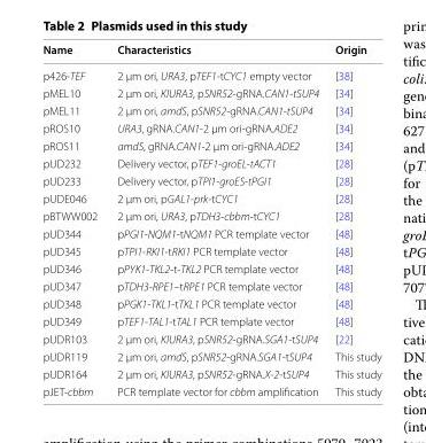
<table><thead><tr><td>Name</td><td>Characteristics</td><td>Origin</td></tr></thead><tbody><tr><td>p426-TEF</td><td>2 μm ori, URA3, pTEF1-tCYC1 empty vector</td><td>[38]</td></tr><tr><td>pMEL10</td><td>2 μm ori, KlURA3, pSNR52-gRNA.CAN1-tSUP4</td><td>[34]</td></tr><tr><td>pMEL11</td><td>2 μm ori, amdS, pSNR52-gRNA.CAN1-tSUP4</td><td>[34]</td></tr><tr><td>pROS10</td><td>URA3, gRNA.CAN1-2 μm ori-gRNA.ADE2</td><td>[34]</td></tr><tr><td>pROS11</td><td>amdS, gRNA.CAN1-2 μm ori-gRNA.ADE2</td><td>[34]</td></tr><tr><td>pUD232</td><td>Delivery vector, pTEF1-groEL-tACT1</td><td>[28]</td></tr><tr><td>pUD233</td><td>Delivery vector, pTPI1-groES-tPGI1</td><td>[28]</td></tr><tr><td>pUDE046</td><td>2 μm ori, pGAL1-prk-tCYC1</td><td>[28]</td></tr><tr><td>pBTWW002</td><td>2 μm ori, URA3, pTDH3-cbbm-tCYC1</td><td>[28]</td></tr><tr><td>pUD344</td><td>pPGI1-NQM1-tNQM1 PCR template vector</td><td>[48]</td></tr><tr><td>pUD345</td><td>pTPI1-RKI1-tRKI1 PCR template vector</td><td>[48]</td></tr><tr><td>pUD346</td><td>pPYK1-TKL2-t-TKL2 PCR template vector</td><td>[48]</td></tr><tr><td>pUD347</td><td>pTDH3-RPE1–tRPE1 PCR template vector</td><td>[48]</td></tr><tr><td>pUD348</td><td>pPGK1-TKL1-tTKL1 PCR template vector</td><td>[48]</td></tr><tr><td>pUD349</td><td>pTEF1-TAL1-tTAL1 PCR template vector</td><td>[48]</td></tr><tr><td>pUDR103</td><td>2 μm ori, KlURA3, pSNR52-gRNA.SGA1-tSUP4</td><td>[22]</td></tr><tr><td>pUDR119</td><td>2 μm ori, amdS, pSNR52-gRNA.SGA1-tSUP4</td><td>This study</td></tr><tr><td>pUDR164</td><td>2 μm ori, KlURA3, pSNR52-gRNA.X-2-tSUP4</td><td>This study</td></tr><tr><td>pJET-cbbm</td><td>PCR template vector for cbbm amplification</td><td>This study</td></tr></tbody></table>